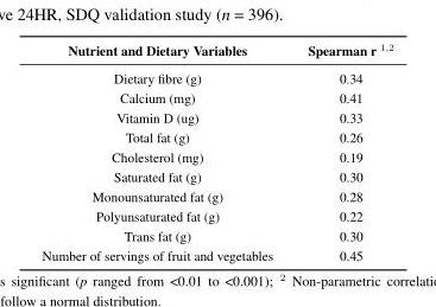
<table><thead><tr><td>Nutrient and Dietary Variables</td><td>Spearman r <sup>1,2</sup></td></tr></thead><tbody><tr><td>Dietary fibre (g)</td><td>0.34</td></tr><tr><td>Calcium (mg)</td><td>0.41</td></tr><tr><td>Vitamin D (ug)</td><td>0.33</td></tr><tr><td>Total fat (g)</td><td>0.26</td></tr><tr><td>Cholesterol (mg)</td><td>0.19</td></tr><tr><td>Saturated fat (g)</td><td>0.30</td></tr><tr><td>Monounsaturated fat (g)</td><td>0.28</td></tr><tr><td>Polyunsaturated fat (g)</td><td>0.22</td></tr><tr><td>Trans fat (g)</td><td>0.30</td></tr><tr><td>Number of servings of fruit and vegetables</td><td>0.45</td></tr></tbody></table>